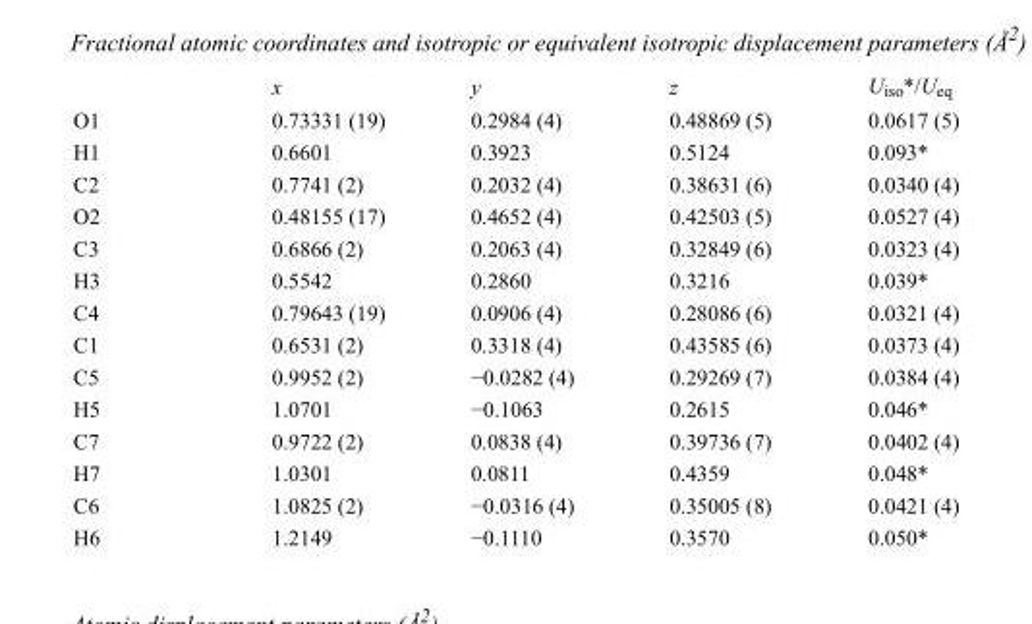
<table><thead><tr><td></td><td>x</td><td>y</td><td>z</td><td>U<sub>iso</sub>*/U<sub>eq</sub></td></tr></thead><tbody><tr><td>O1</td><td>0.73331 (19)</td><td>0.2984 (4)</td><td>0.48869 (5)</td><td>0.0617 (5)</td></tr><tr><td>H1</td><td>0.6601</td><td>0.3923</td><td>0.5124</td><td>0.093*</td></tr><tr><td>C2</td><td>0.7741 (2)</td><td>0.2032 (4)</td><td>0.38631 (6)</td><td>0.0340 (4)</td></tr><tr><td>O2</td><td>0.48155 (17)</td><td>0.4652 (4)</td><td>0.42503 (5)</td><td>0.0527 (4)</td></tr><tr><td>C3</td><td>0.6866 (2)</td><td>0.2063 (4)</td><td>0.32849 (6)</td><td>0.0323 (4)</td></tr><tr><td>H3</td><td>0.5542</td><td>0.2860</td><td>0.3216</td><td>0.039*</td></tr><tr><td>C4</td><td>0.79643 (19)</td><td>0.0906 (4)</td><td>0.28086 (6)</td><td>0.0321 (4)</td></tr><tr><td>C1</td><td>0.6531 (2)</td><td>0.3318 (4)</td><td>0.43585 (6)</td><td>0.0373 (4)</td></tr><tr><td>C5</td><td>0.9952 (2)</td><td>−0.0282 (4)</td><td>0.29269 (7)</td><td>0.0384 (4)</td></tr><tr><td>H5</td><td>1.0701</td><td>−0.1063</td><td>0.2615</td><td>0.046*</td></tr><tr><td>C7</td><td>0.9722 (2)</td><td>0.0838 (4)</td><td>0.39736 (7)</td><td>0.0402 (4)</td></tr><tr><td>H7</td><td>1.0301</td><td>0.0811</td><td>0.4359</td><td>0.048*</td></tr><tr><td>C6</td><td>1.0825 (2)</td><td>−0.0316 (4)</td><td>0.35005 (8)</td><td>0.0421 (4)</td></tr><tr><td>H6</td><td>1.2149</td><td>−0.1110</td><td>0.3570</td><td>0.050*</td></tr></tbody></table>